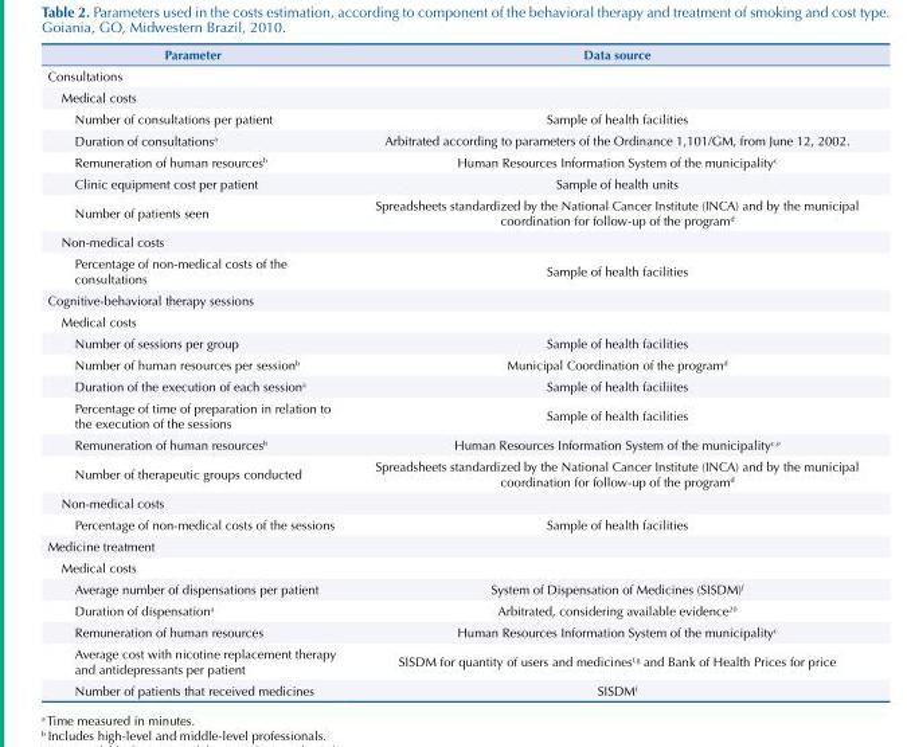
<table><thead><tr><td>Parameter</td><td>Data source</td></tr></thead><tbody><tr><td colspan="2">Consultations</td></tr><tr><td colspan="2">Medical costs</td></tr><tr><td>Number of consultations per patient</td><td>Sample of health facilities</td></tr><tr><td>Duration of consultations<sup>a</sup></td><td>Arbitrated according to parameters of the Ordinance 1,101/GM, from June 12, 2002.</td></tr><tr><td>Remuneration of human resources<sup>b</sup></td><td>Human Resources Information System of the municipality<sup>c</sup></td></tr><tr><td>Clinic equipment cost per patient</td><td>Sample of health units</td></tr><tr><td>Number of patients seen</td><td>Spreadsheets standardized by the National Cancer Institute (INCA) and by the municipal coordination for follow-up of the program<sup>d</sup></td></tr><tr><td colspan="2">Non-medical costs</td></tr><tr><td>Percentage of non-medical costs of the consultations</td><td>Sample of health facilities</td></tr><tr><td colspan="2">Cognitive-behavioral therapy sessions</td></tr><tr><td colspan="2">Medical costs</td></tr><tr><td>Number of sessions per group</td><td>Sample of health facilities</td></tr><tr><td>Number of human resources per session<sup>b</sup></td><td>Municipal Coordination of the program<sup>d</sup></td></tr><tr><td>Duration of the execution of each session<sup>a</sup></td><td>Sample of health faciliites</td></tr><tr><td>Percentage of time of preparation in relation to the execution of the sessions</td><td>Sample of health facilities</td></tr><tr><td>Remuneration of human resources<sup>b</sup></td><td>Human Resources Information System of the municipality<sup>c,e</sup></td></tr><tr><td>Number of therapeutic groups conducted</td><td>Spreadsheets standardized by the National Cancer Institute (INCA) and by the municipal coordination for follow-up of the program<sup>d</sup></td></tr><tr><td colspan="2">Non-medical costs</td></tr><tr><td>Percentage of non-medical costs of the sessions</td><td>Sample of health facilities</td></tr><tr><td colspan="2">Medicine treatment</td></tr><tr><td colspan="2">Medical costs</td></tr><tr><td>Average number of dispensations per patient</td><td>System of Dispensation of Medicines (SISDM)<sup>f</sup></td></tr><tr><td>Duration of dispensation<sup>a</sup></td><td>Arbitrated, considering available evidence<sup>20</sup></td></tr><tr><td>Remuneration of human resources</td><td>Human Resources Information System of the municipality<sup>c</sup></td></tr><tr><td>Average cost with nicotine replacement therapy and antidepressants per patient</td><td>SISDM for quantity of users and medicines<sup>f,g</sup> and Bank of Health Prices for price</td></tr><tr><td>Number of patients that received medicines</td><td>SISDM<sup>f</sup></td></tr></tbody></table>